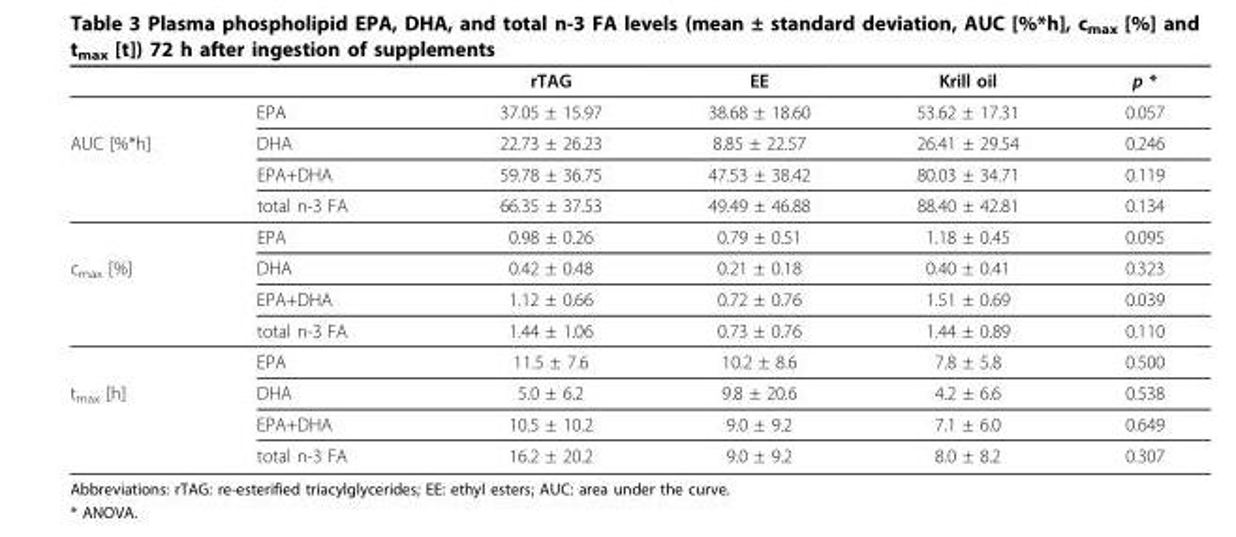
<table><thead><tr><td></td><td></td><td>rTAG</td><td>EE</td><td>Krill oil</td><td>p *</td></tr></thead><tbody><tr><td></td><td>EPA</td><td>37.05 ± 15.97</td><td>38.68 ± 18.60</td><td>53.62 ± 17.31</td><td>0.057</td></tr><tr><td rowspan="4">AUC [%*h]</td><td>DHA</td><td>22.73 ± 26.23</td><td>8.85 ± 22.57</td><td>26.41 ± 29.54</td><td>0.246</td></tr><tr><td>EPA+DHA</td><td>59.78 ± 36.75</td><td>47.53 ± 38.42</td><td>80.03 ± 34.71</td><td>0.119</td></tr><tr><td>total n-3 FA</td><td>66.35 ± 37.53</td><td>49.49 ± 46.88</td><td>88.40 ± 42.81</td><td>0.134</td></tr><tr><td>EPA</td><td>0.98 ± 0.26</td><td>0.79 ± 0.51</td><td>1.18 ± 0.45</td><td>0.095</td></tr><tr><td rowspan="4">c<sub>max</sub> [%]</td><td>DHA</td><td>0.42 ± 0.48</td><td>0.21 ± 0.18</td><td>0.40 ± 0.41</td><td>0.323</td></tr><tr><td>EPA+DHA</td><td>1.12 ± 0.66</td><td>0.72 ± 0.76</td><td>1.51 ± 0.69</td><td>0.039</td></tr><tr><td>total n-3 FA</td><td>1.44 ± 1.06</td><td>0.73 ± 0.76</td><td>1.44 ± 0.89</td><td>0.110</td></tr><tr><td>EPA</td><td>11.5 ± 7.6</td><td>10.2 ± 8.6</td><td>7.8 ± 5.8</td><td>0.500</td></tr><tr><td rowspan="3">t<sub>max</sub> [h]</td><td>DHA</td><td>5.0 ± 6.2</td><td>9.8 ± 20.6</td><td>4.2 ± 6.6</td><td>0.538</td></tr><tr><td>EPA+DHA</td><td>10.5 ± 10.2</td><td>9.0 ± 9.2</td><td>7.1 ± 6.0</td><td>0.649</td></tr><tr><td>total n-3 FA</td><td>16.2 ± 20.2</td><td>9.0 ± 9.2</td><td>8.0 ± 8.2</td><td>0.307</td></tr></tbody></table>